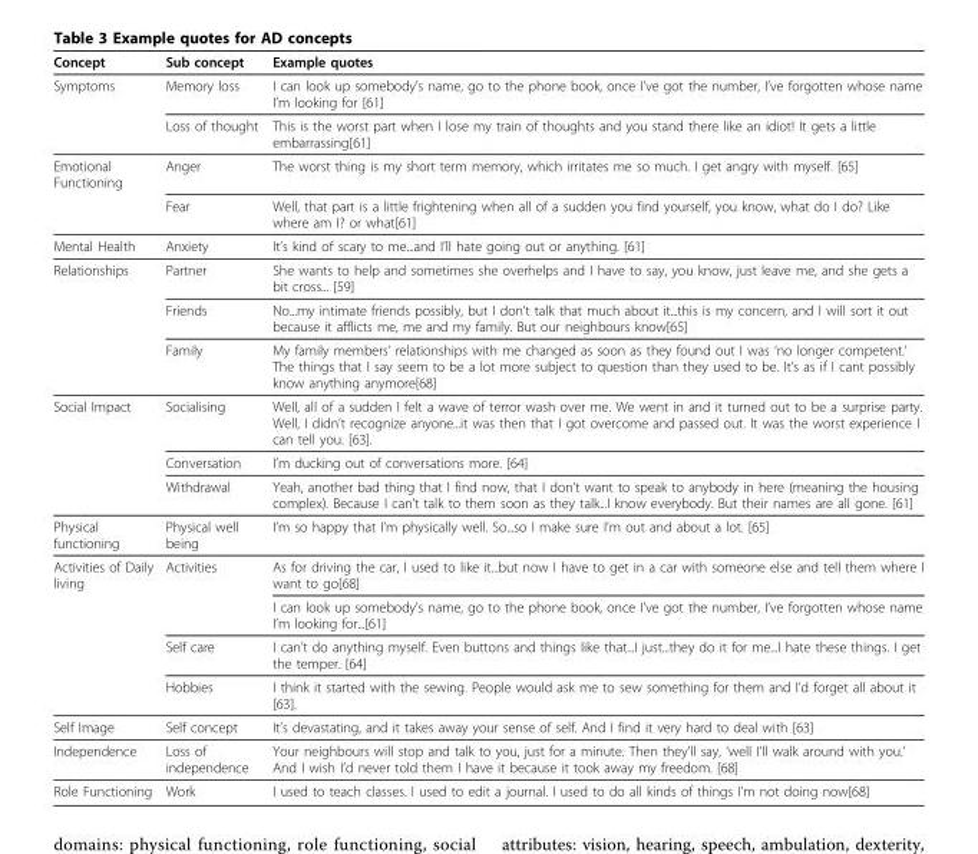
<table><thead><tr><td>Concept</td><td>Sub concept</td><td>Example quotes</td></tr></thead><tbody><tr><td rowspan="2">Symptoms</td><td>Memory loss</td><td>I can look up somebody’s name, go to the phone book, once I’ve got the number, I’ve forgotten whose name I’m looking for [61]</td></tr><tr><td>Loss of thought</td><td>This is the worst part when I lose my train of thoughts and you stand there like an idiot! It gets a little embarrassing[61]</td></tr><tr><td rowspan="2">Emotional Functioning</td><td>Anger</td><td>The worst thing is my short term memory, which irritates me so much. I get angry with myself. [65]</td></tr><tr><td>Fear</td><td>Well, that part is a little frightening when all of a sudden you find yourself, you know, what do I do? Like where am I? or what[61]</td></tr><tr><td>Mental Health</td><td>Anxiety</td><td>It’s kind of scary to me...and I’ll hate going out or anything. [61]</td></tr><tr><td rowspan="3">Relationships</td><td>Partner</td><td>She wants to help and sometimes she overhelps and I have to say, you know, just leave me, and she gets a bit cross... [59]</td></tr><tr><td>Friends</td><td>No...my intimate friends possibly, but I don’t talk that much about it...this is my concern, and I will sort it out because it afflicts me, me and my family. But our neighbours know[65]</td></tr><tr><td>Family</td><td>My family members’ relationships with me changed as soon as they found out I was ‘no longer competent.’ The things that I say seem to be a lot more subject to question than they used to be. It’s as if I cant possibly know anything anymore[68]</td></tr><tr><td rowspan="3">Social Impact</td><td>Socialising</td><td>Well, all of a sudden I felt a wave of terror wash over me. We went in and it turned out to be a surprise party. Well, I didn’t recognize anyone...it was then that I got overcome and passed out. It was the worst experience I can tell you. [63].</td></tr><tr><td>Conversation</td><td>I’m ducking out of conversations more. [64]</td></tr><tr><td>Withdrawal</td><td>Yeah, another bad thing that I find now, that I don’t want to speak to anybody in here (meaning the housing complex). Because I can’t talk to them soon as they talk...I know everybody. But their names are all gone. [61]</td></tr><tr><td>Physical functioning</td><td>Physical well being</td><td>I’m so happy that I’m physically well. So...so I make sure I’m out and about a lot. [65]</td></tr><tr><td rowspan="4">Activities of Daily living</td><td>Activities</td><td>As for driving the car, I used to like it...but now I have to get in a car with someone else and tell them where I want to go[68]</td></tr><tr><td></td><td>I can look up somebody’s name, go to the phone book, once I’ve got the number, I’ve forgotten whose name I’m looking for...[61]</td></tr><tr><td>Self care</td><td>I can’t do anything myself. Even buttons and things like that...I just...they do it for me...I hate these things. I get the temper. [64]</td></tr><tr><td>Hobbies</td><td>I think it started with the sewing. People would ask me to sew something for them and I’d forget all about it [63].</td></tr><tr><td>Self Image</td><td>Self concept</td><td>It’s devastating, and it takes away your sense of self. And I find it very hard to deal with [63]</td></tr><tr><td>Independence</td><td>Loss of independence</td><td>Your neighbours will stop and talk to you, just for a minute. Then they’ll say, ‘well I’ll walk around with you.’ And I wish I’d never told them I have it because it took away my freedom. [68]</td></tr><tr><td>Role Functioning</td><td>Work</td><td>I used to teach classes. I used to edit a journal. I used to do all kinds of things I’m not doing now[68]</td></tr></tbody></table>